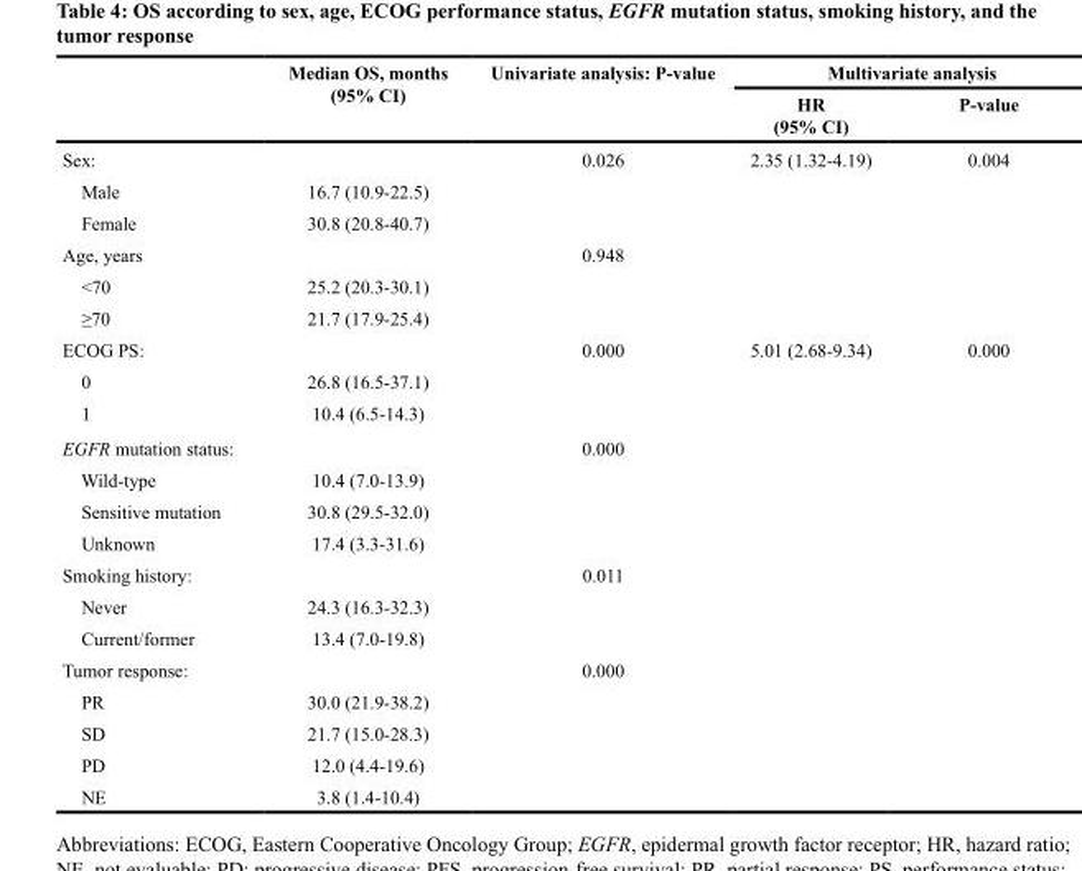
<table><thead><tr><td rowspan="2"></td><td rowspan="2">Median OS, months (95% CI)</td><td rowspan="2">Univariate analysis: P-value</td><td colspan="2">Multivariate analysis</td></tr><tr><td>HR (95% CI)</td><td>P-value</td></tr></thead><tbody><tr><td>Sex:</td><td></td><td>0.026</td><td>2.35 (1.32-4.19)</td><td>0.004</td></tr><tr><td>Male</td><td>16.7 (10.9-22.5)</td><td></td><td></td><td></td></tr><tr><td>Female</td><td>30.8 (20.8-40.7)</td><td></td><td></td><td></td></tr><tr><td>Age, years</td><td></td><td>0.948</td><td></td><td></td></tr><tr><td>&lt;70</td><td>25.2 (20.3-30.1)</td><td></td><td></td><td></td></tr><tr><td>≥70</td><td>21.7 (17.9-25.4)</td><td></td><td></td><td></td></tr><tr><td>ECOG PS:</td><td></td><td>0.000</td><td>5.01 (2.68-9.34)</td><td>0.000</td></tr><tr><td>0</td><td>26.8 (16.5-37.1)</td><td></td><td></td><td></td></tr><tr><td>1</td><td>10.4 (6.5-14.3)</td><td></td><td></td><td></td></tr><tr><td>EGFR mutation status:</td><td></td><td>0.000</td><td></td><td></td></tr><tr><td>Wild-type</td><td>10.4 (7.0-13.9)</td><td></td><td></td><td></td></tr><tr><td>Sensitive mutation</td><td>30.8 (29.5-32.0)</td><td></td><td></td><td></td></tr><tr><td>Unknown</td><td>17.4 (3.3-31.6)</td><td></td><td></td><td></td></tr><tr><td>Smoking history:</td><td></td><td>0.011</td><td></td><td></td></tr><tr><td>Never</td><td>24.3 (16.3-32.3)</td><td></td><td></td><td></td></tr><tr><td>Current/former</td><td>13.4 (7.0-19.8)</td><td></td><td></td><td></td></tr><tr><td>Tumor response:</td><td></td><td>0.000</td><td></td><td></td></tr><tr><td>PR</td><td>30.0 (21.9-38.2)</td><td></td><td></td><td></td></tr><tr><td>SD</td><td>21.7 (15.0-28.3)</td><td></td><td></td><td></td></tr><tr><td>PD</td><td>12.0 (4.4-19.6)</td><td></td><td></td><td></td></tr><tr><td>NE</td><td>3.8 (1.4-10.4)</td><td></td><td></td><td></td></tr></tbody></table>